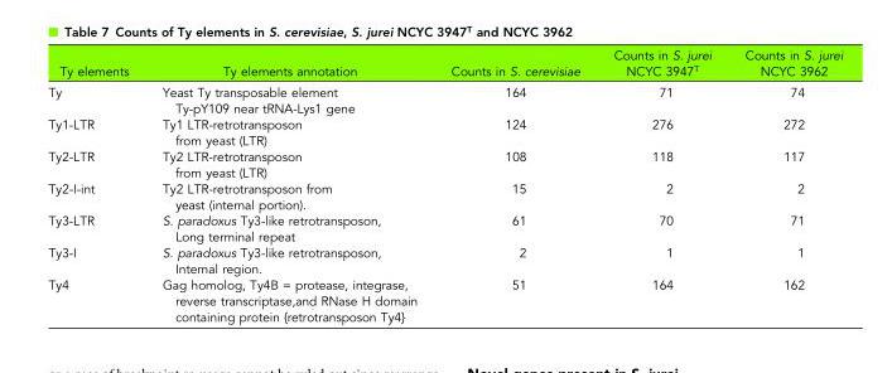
<table><thead><tr><td>Ty elements</td><td>Ty elements annotation</td><td>Counts in S. cerevisiae</td><td>Counts in S. jurei NCYC 3947<sup>T</sup></td><td>Counts in S. jurei NCYC 3962</td></tr></thead><tbody><tr><td>Ty</td><td>Yeast Ty transposable element Ty-pY109 near tRNA-Lys1 gene</td><td>164</td><td>71</td><td>74</td></tr><tr><td>Ty1-LTR</td><td>Ty1 LTR-retrotransposon from yeast (LTR)</td><td>124</td><td>276</td><td>272</td></tr><tr><td>Ty2-LTR</td><td>Ty2 LTR-retrotransposon from yeast (LTR)</td><td>108</td><td>118</td><td>117</td></tr><tr><td>Ty2-I-int</td><td>Ty2 LTR-retrotransposon from yeast (internal portion).</td><td>15</td><td>2</td><td>2</td></tr><tr><td>Ty3-LTR</td><td>S. paradoxus Ty3-like retrotransposon, Long terminal repeat</td><td>61</td><td>70</td><td>71</td></tr><tr><td>Ty3-I</td><td>S. paradoxus Ty3-like retrotransposon, Internal region.</td><td>2</td><td>1</td><td>1</td></tr><tr><td>Ty4</td><td>Gag homolog, Ty4B = protease, integrase, reverse transcriptase,and RNase H domain containing protein {retrotransposon Ty4}</td><td>51</td><td>164</td><td>162</td></tr></tbody></table>